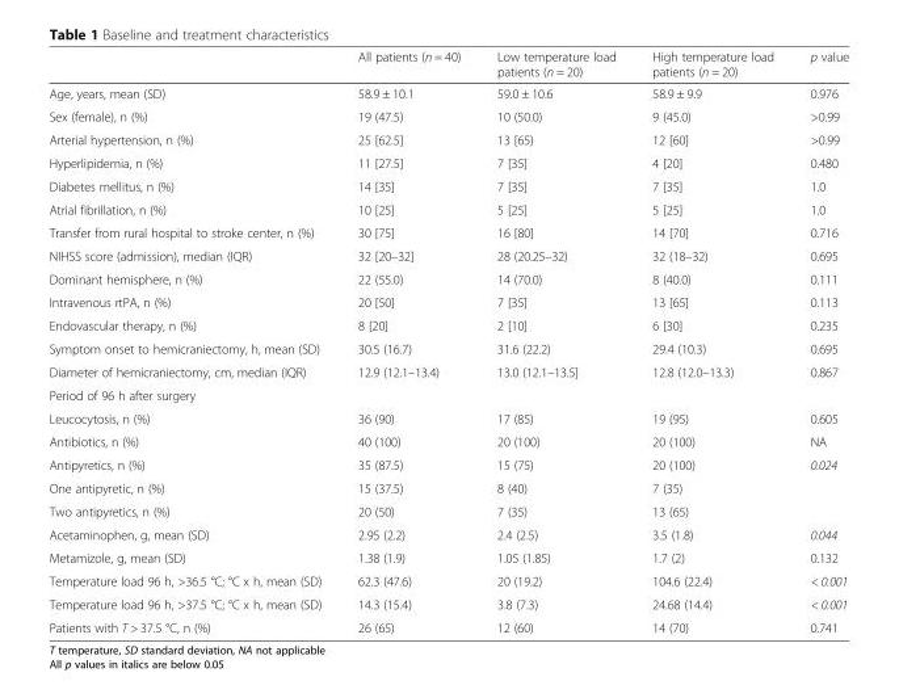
<table><thead><tr><td></td><td>All patients (n = 40)</td><td>Low temperature load patients (n = 20)</td><td>High temperature load patients (n = 20)</td><td>p value</td></tr></thead><tbody><tr><td>Age, years, mean (SD)</td><td>58.9 ± 10.1</td><td>59.0 ± 10.6</td><td>58.9 ± 9.9</td><td>0.976</td></tr><tr><td>Sex (female), n (%)</td><td>19 (47.5)</td><td>10 (50.0)</td><td>9 (45.0)</td><td>&gt;0.99</td></tr><tr><td>Arterial hypertension, n (%)</td><td>25 [62.5]</td><td>13 [65)</td><td>12 [60]</td><td>&gt;0.99</td></tr><tr><td>Hyperlipidemia, n (%)</td><td>11 [27.5]</td><td>7 [35]</td><td>4 [20]</td><td>0.480</td></tr><tr><td>Diabetes mellitus, n (%)</td><td>14 [35]</td><td>7 [35]</td><td>7 [35]</td><td>1.0</td></tr><tr><td>Atrial fibrillation, n (%)</td><td>10 [25]</td><td>5 [25]</td><td>5 [25]</td><td>1.0</td></tr><tr><td>Transfer from rural hospital to stroke center, n (%)</td><td>30 [75]</td><td>16 [80]</td><td>14 [70]</td><td>0.716</td></tr><tr><td>NIHSS score (admission), median (IQR)</td><td>32 [20–32]</td><td>28 (20.25–32)</td><td>32 (18–32)</td><td>0.695</td></tr><tr><td>Dominant hemisphere, n (%)</td><td>22 (55.0)</td><td>14 (70.0)</td><td>8 (40.0)</td><td>0.111</td></tr><tr><td>Intravenous rtPA, n (%)</td><td>20 [50]</td><td>7 [35]</td><td>13 [65]</td><td>0.113</td></tr><tr><td>Endovascular therapy, n (%)</td><td>8 [20]</td><td>2 [10]</td><td>6 [30]</td><td>0.235</td></tr><tr><td>Symptom onset to hemicraniectomy, h, mean (SD)</td><td>30.5 (16.7)</td><td>31.6 (22.2)</td><td>29.4 (10.3)</td><td>0.695</td></tr><tr><td>Diameter of hemicraniectomy, cm, median (IQR)</td><td>12.9 (12.1–13.4)</td><td>13.0 (12.1–13.5]</td><td>12.8 (12.0–13.3)</td><td>0.867</td></tr><tr><td colspan="5">Period of 96 h after surgery</td></tr><tr><td>Leucocytosis, n (%)</td><td>36 (90)</td><td>17 (85)</td><td>19 (95)</td><td>0.605</td></tr><tr><td>Antibiotics, n (%)</td><td>40 (100)</td><td>20 (100)</td><td>20 (100)</td><td>NA</td></tr><tr><td>Antipyretics, n (%)</td><td>35 (87.5)</td><td>15 (75)</td><td>20 (100)</td><td rowspan="3">0.024</td></tr><tr><td>One antipyretic, n (%)</td><td>15 (37.5)</td><td>8 (40)</td><td>7 (35)</td></tr><tr><td>Two antipyretics, n (%)</td><td>20 (50)</td><td>7 (35)</td><td>13 (65)</td></tr><tr><td>Acetaminophen, g, mean (SD)</td><td>2.95 (2.2)</td><td>2.4 (2.5)</td><td>3.5 (1.8)</td><td>0.044</td></tr><tr><td>Metamizole, g, mean (SD)</td><td>1.38 (1.9)</td><td>1.05 (1.85)</td><td>1.7 (2)</td><td>0.132</td></tr><tr><td>Temperature load 96 h, &gt;36.5 °C; °C x h, mean (SD)</td><td>62.3 (47.6)</td><td>20 (19.2)</td><td>104.6 (22.4)</td><td>&lt; 0.001</td></tr><tr><td>Temperature load 96 h, &gt;37.5 °C; °C x h, mean (SD)</td><td>14.3 (15.4)</td><td>3.8 (7.3)</td><td>24.68 (14.4)</td><td>&lt; 0.001</td></tr><tr><td>Patients with T &gt; 37.5 °C, n (%)</td><td>26 (65)</td><td>12 (60)</td><td>14 (70)</td><td>0.741</td></tr></tbody></table>